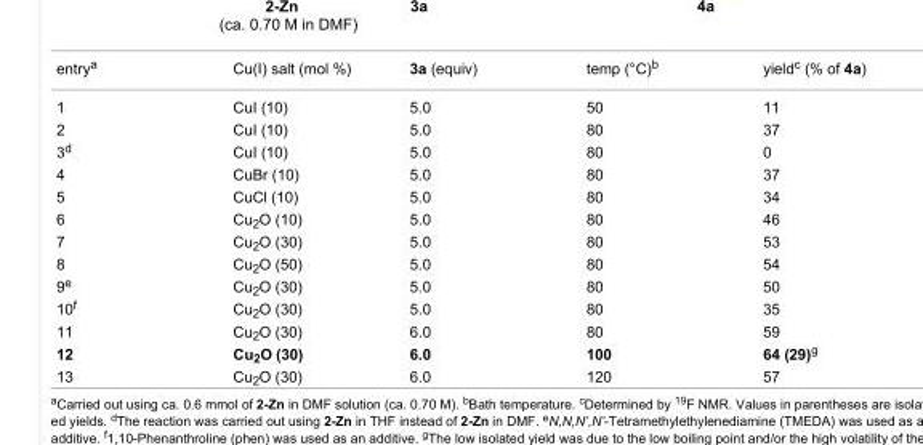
<table><tbody><tr><td>entry<sup>a</sup></td><td>Cu(I) salt (mol %)</td><td>3a (equiv)</td><td>temp (°C)<sup>b</sup></td><td>yield<sup>c</sup> (% of 4a)</td></tr><tr><td>1</td><td>CuI (10)</td><td>5.0</td><td>50</td><td>11</td></tr><tr><td>2</td><td>CuI (10)</td><td>5.0</td><td>80</td><td>37</td></tr><tr><td>3<sup>d</sup></td><td>CuI (10)</td><td>5.0</td><td>80</td><td>0</td></tr><tr><td>4</td><td>CuBr (10)</td><td>5.0</td><td>80</td><td>37</td></tr><tr><td>5</td><td>CuCl (10)</td><td>5.0</td><td>80</td><td>34</td></tr><tr><td>6</td><td>Cu<sub>2</sub>O (10)</td><td>5.0</td><td>80</td><td>46</td></tr><tr><td>7</td><td>Cu<sub>2</sub>O (30)</td><td>5.0</td><td>80</td><td>53</td></tr><tr><td>8</td><td>Cu<sub>2</sub>O (50)</td><td>5.0</td><td>80</td><td>54</td></tr><tr><td>9<sup>e</sup></td><td>Cu<sub>2</sub>O (30)</td><td>5.0</td><td>80</td><td>50</td></tr><tr><td>10<sup>f</sup></td><td>Cu<sub>2</sub>O (30)</td><td>5.0</td><td>80</td><td>35</td></tr><tr><td>11</td><td>Cu<sub>2</sub>O (30)</td><td>6.0</td><td>80</td><td>59</td></tr><tr><td>12</td><td>Cu<sub>2</sub>O (30)</td><td>6.0</td><td>100</td><td>64 (29)<sup>g</sup></td></tr><tr><td>13</td><td>Cu<sub>2</sub>O (30)</td><td>6.0</td><td>120</td><td>57</td></tr></tbody></table>